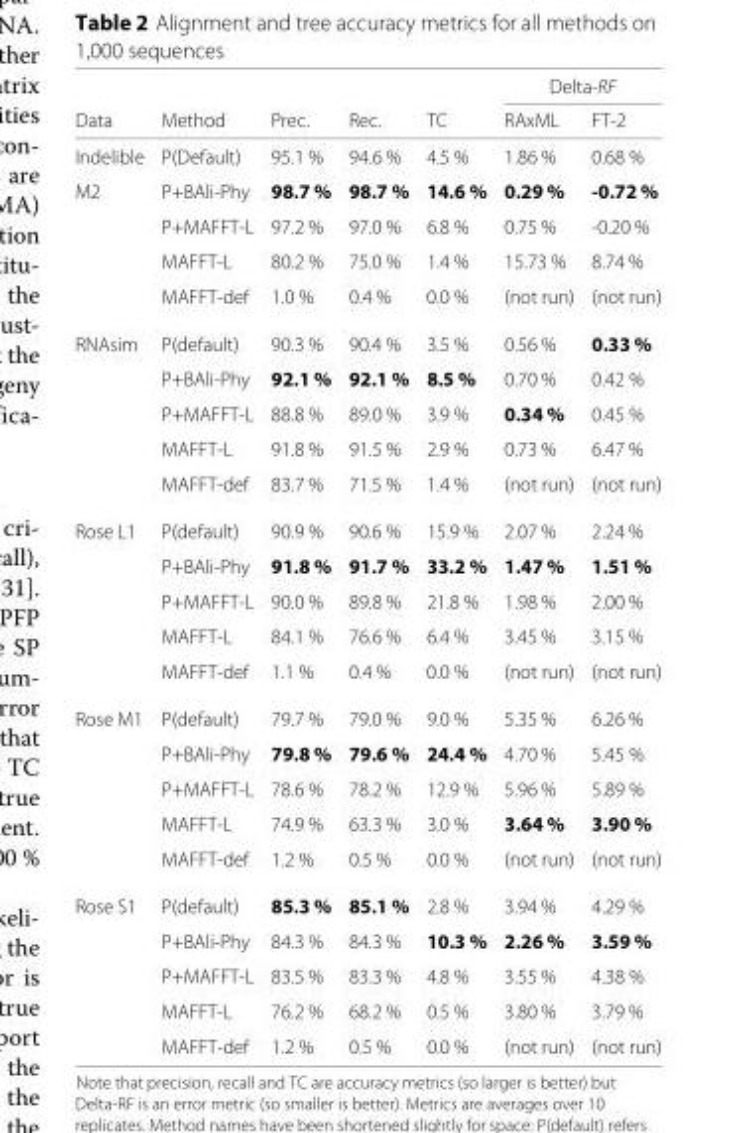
<table><thead><tr><td rowspan="2">Data</td><td rowspan="2">Method</td><td rowspan="2">Prec.</td><td rowspan="2">Rec.</td><td rowspan="2">TC</td><td colspan="2">Delta-RF</td></tr><tr><td>RAxML</td><td>FT-2</td></tr></thead><tbody><tr><td>Indelible</td><td>P(Default)</td><td>95.1 %</td><td>94.6 %</td><td>4.5 %</td><td>1.86 %</td><td>0.68 %</td></tr><tr><td rowspan="4">M2</td><td>P+BAli-Phy</td><td>98.7 %</td><td>98.7 %</td><td>14.6 %</td><td>0.29 %</td><td>-0.72 %</td></tr><tr><td>P+MAFFT-L</td><td>97.2 %</td><td>97.0 %</td><td>6.8 %</td><td>0.75 %</td><td>-0.20 %</td></tr><tr><td>MAFFT-L</td><td>80.2 %</td><td>75.0 %</td><td>1.4 %</td><td>15.73 %</td><td>8.74 %</td></tr><tr><td>MAFFT-def</td><td>1.0 %</td><td>0.4 %</td><td>0.0 %</td><td>(not run)</td><td>(not run)</td></tr><tr><td rowspan="5">RNAsim</td><td>P(default)</td><td>90.3 %</td><td>90.4 %</td><td>3.5 %</td><td>0.56 %</td><td>0.33 %</td></tr><tr><td>P+BAli-Phy</td><td>92.1 %</td><td>92.1 %</td><td>8.5 %</td><td>0.70 %</td><td>0.42 %</td></tr><tr><td>P+MAFFT-L</td><td>88.8 %</td><td>89.0 %</td><td>3.9 %</td><td>0.34 %</td><td>0.45 %</td></tr><tr><td>MAFFT-L</td><td>91.8 %</td><td>91.5 %</td><td>2.9 %</td><td>0.73 %</td><td>6.47 %</td></tr><tr><td>MAFFT-def</td><td>83.7 %</td><td>71.5 %</td><td>1.4 %</td><td>(not run)</td><td>(not run)</td></tr><tr><td rowspan="5">Rose L1</td><td>P(default)</td><td>90.9 %</td><td>90.6 %</td><td>15.9 %</td><td>2.07 %</td><td>2.24 %</td></tr><tr><td>P+BAli-Phy</td><td>91.8 %</td><td>91.7 %</td><td>33.2 %</td><td>1.47 %</td><td>1.51 %</td></tr><tr><td>P+MAFFT-L</td><td>90.0 %</td><td>89.8 %</td><td>21.8 %</td><td>1.98 %</td><td>2.00 %</td></tr><tr><td>MAFFT-L</td><td>84.1 %</td><td>76.6 %</td><td>6.4 %</td><td>3.45 %</td><td>3.15 %</td></tr><tr><td>MAFFT-def</td><td>1.1 %</td><td>0.4 %</td><td>0.0 %</td><td>(not run)</td><td>(not run)</td></tr><tr><td rowspan="5">Rose M1</td><td>P(default)</td><td>79.7 %</td><td>79.0 %</td><td>9.0 %</td><td>5.35 %</td><td>6.26 %</td></tr><tr><td>P+BAli-Phy</td><td>79.8 %</td><td>79.6 %</td><td>24.4 %</td><td>4.70 %</td><td>5.45 %</td></tr><tr><td>P+MAFFT-L</td><td>78.6 %</td><td>78.2 %</td><td>12.9 %</td><td>5.96 %</td><td>5.89 %</td></tr><tr><td>MAFFT-L</td><td>74.9 %</td><td>63.3 %</td><td>3.0 %</td><td>3.64 %</td><td>3.90 %</td></tr><tr><td>MAFFT-def</td><td>1.2 %</td><td>0.5 %</td><td>0.0 %</td><td>(not run)</td><td>(not run)</td></tr><tr><td rowspan="5">Rose S1</td><td>P(default)</td><td>85.3 %</td><td>85.1 %</td><td>2.8 %</td><td>3.94 %</td><td>4.29 %</td></tr><tr><td>P+BAli-Phy</td><td>84.3 %</td><td>84.3 %</td><td>10.3 %</td><td>2.26 %</td><td>3.59 %</td></tr><tr><td>P+MAFFT-L</td><td>83.5 %</td><td>83.3 %</td><td>4.8 %</td><td>3.55 %</td><td>4.38 %</td></tr><tr><td>MAFFT-L</td><td>76.2 %</td><td>68.2 %</td><td>0.5 %</td><td>3.80 %</td><td>3.79 %</td></tr><tr><td>MAFFT-def</td><td>1.2 %</td><td>0.5 %</td><td>0.0 %</td><td>(not run)</td><td>(not run)</td></tr></tbody></table>